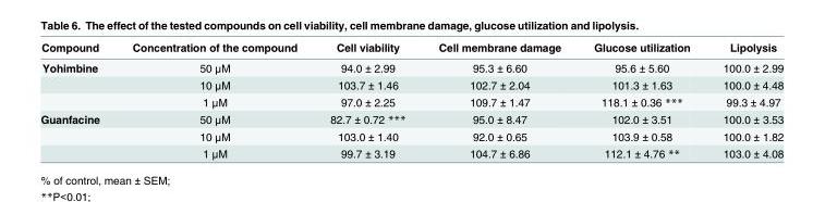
<table><thead><tr><td>Compound</td><td>Concentration of the compound</td><td>Cell viability</td><td>Cell membrane damage</td><td>Glucose utilization</td><td>Lipolysis</td></tr></thead><tbody><tr><td rowspan="3">Yohimbine</td><td>50 μM</td><td>94.0 ± 2.99</td><td>95.3 ± 6.60</td><td>95.6 ± 5.60</td><td>100.0 ± 2.99</td></tr><tr><td>10 μM</td><td>103.7 ± 1.46</td><td>102.7 ± 2.04</td><td>101.3 ± 1.63</td><td>100.0 ± 4.48</td></tr><tr><td>1 μM</td><td>97.0 ± 2.25</td><td>109.7 ± 1.47</td><td>118.1 ± 0.36 ***</td><td>99.3 ± 4.97</td></tr><tr><td rowspan="3">Guanfacine</td><td>50 μM</td><td>82.7 ± 0.72 ***</td><td>95.0 ± 8.47</td><td>102.0 ± 3.51</td><td>100.0 ± 3.53</td></tr><tr><td>10 μM</td><td>103.0 ± 1.40</td><td>92.0 ± 0.65</td><td>103.9 ± 0.58</td><td>100.0 ± 1.82</td></tr><tr><td>1 μM</td><td>99.7 ± 3.19</td><td>104.7 ± 6.86</td><td>112.1 ± 4.76 **</td><td>103.0 ± 4.08</td></tr></tbody></table>